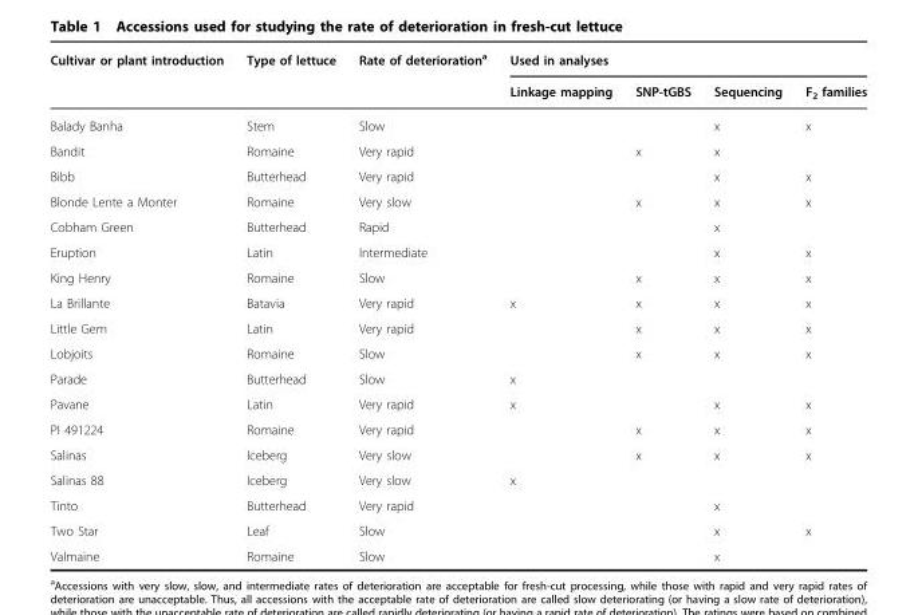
<table><thead><tr><td rowspan="2">Cultivar or plant introduction</td><td rowspan="2">Type of lettuce</td><td rowspan="2">Rate of deterioration<sup>a</sup></td><td colspan="4">Used in analyses</td></tr><tr><td>Linkage mapping</td><td>SNP-tGBS</td><td>Sequencing</td><td>F<sub>2</sub> families</td></tr></thead><tbody><tr><td>Balady Banha</td><td>Stem</td><td>Slow</td><td></td><td></td><td>x</td><td>x</td></tr><tr><td>Bandit</td><td>Romaine</td><td>Very rapid</td><td></td><td>x</td><td>x</td><td></td></tr><tr><td>Bibb</td><td>Butterhead</td><td>Very rapid</td><td></td><td></td><td>x</td><td>x</td></tr><tr><td>Blonde Lente a Monter</td><td>Romaine</td><td>Very slow</td><td></td><td>x</td><td>x</td><td>x</td></tr><tr><td>Cobham Green</td><td>Butterhead</td><td>Rapid</td><td></td><td></td><td>x</td><td></td></tr><tr><td>Eruption</td><td>Latin</td><td>Intermediate</td><td></td><td></td><td>x</td><td>x</td></tr><tr><td>King Henry</td><td>Romaine</td><td>Slow</td><td></td><td>x</td><td>x</td><td>x</td></tr><tr><td>La Brillante</td><td>Batavia</td><td>Very rapid</td><td>x</td><td>x</td><td>x</td><td>x</td></tr><tr><td>Little Gem</td><td>Latin</td><td>Very rapid</td><td></td><td>x</td><td>x</td><td>x</td></tr><tr><td>Lobjoits</td><td>Romaine</td><td>Slow</td><td></td><td>x</td><td>x</td><td>x</td></tr><tr><td>Parade</td><td>Butterhead</td><td>Slow</td><td>x</td><td></td><td></td><td></td></tr><tr><td>Pavane</td><td>Latin</td><td>Very rapid</td><td>x</td><td></td><td>x</td><td>x</td></tr><tr><td>PI 491224</td><td>Romaine</td><td>Very rapid</td><td></td><td>x</td><td>x</td><td>x</td></tr><tr><td>Salinas</td><td>Iceberg</td><td>Very slow</td><td></td><td>x</td><td>x</td><td>x</td></tr><tr><td>Salinas 88</td><td>Iceberg</td><td>Very slow</td><td>x</td><td></td><td></td><td></td></tr><tr><td>Tinto</td><td>Butterhead</td><td>Very rapid</td><td></td><td></td><td>x</td><td></td></tr><tr><td>Two Star</td><td>Leaf</td><td>Slow</td><td></td><td></td><td>x</td><td>x</td></tr><tr><td>Valmaine</td><td>Romaine</td><td>Slow</td><td></td><td></td><td>x</td><td></td></tr></tbody></table>